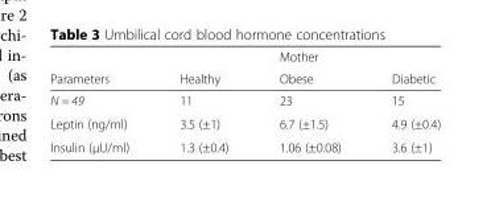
<table><thead><tr><td rowspan="2">Parameters</td><td rowspan="2">Healthy</td><td rowspan="2">Mother Obese</td><td rowspan="2">Diabetic</td></tr><tr></tr></thead><tbody><tr><td>N = 49</td><td>11</td><td>23</td><td>15</td></tr><tr><td>Leptin (ng/ml)</td><td>3.5 (±1)</td><td>6.7 (±1.5)</td><td>4.9 (±0.4)</td></tr><tr><td>Insulin (μU/ml)</td><td>1.3 (±0.4)</td><td>1.06 (±0.08)</td><td>3.6 (±1)</td></tr></tbody></table>